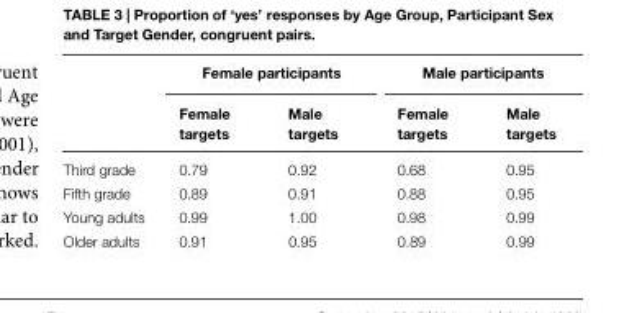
<table><thead><tr><td rowspan="2"></td><td colspan="2">Female participants</td><td colspan="2">Male participants</td></tr><tr><td>Female targets</td><td>Male targets</td><td>Female targets</td><td>Male targets</td></tr></thead><tbody><tr><td>Third grade</td><td>0.79</td><td>0.92</td><td>0.68</td><td>0.95</td></tr><tr><td>Fifth grade</td><td>0.89</td><td>0.91</td><td>0.88</td><td>0.95</td></tr><tr><td>Young adults</td><td>0.99</td><td>1.00</td><td>0.98</td><td>0.99</td></tr><tr><td>Older adults</td><td>0.91</td><td>0.95</td><td>0.89</td><td>0.99</td></tr></tbody></table>